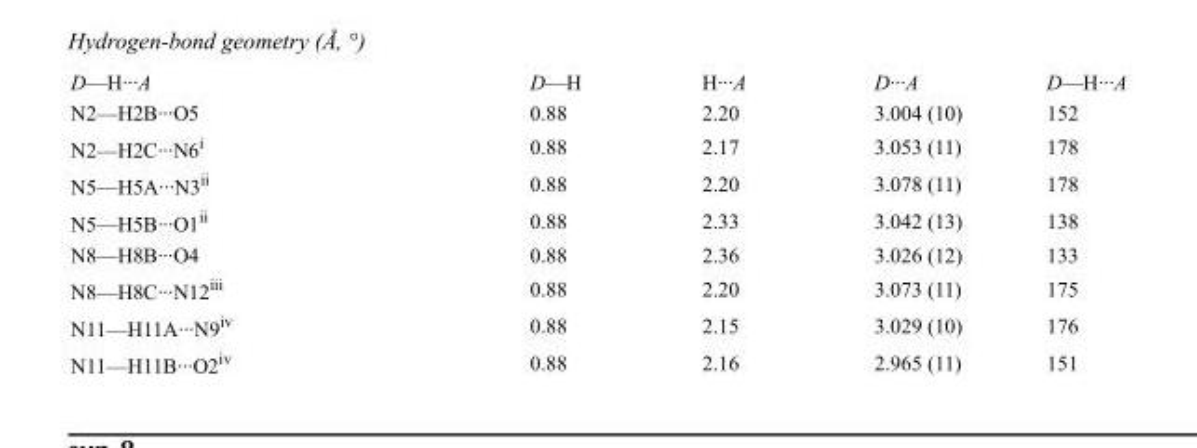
<table><tbody><tr><td>D—H···A</td><td>D—H</td><td>H···A</td><td>D···A</td><td>D—H···A</td></tr><tr><td>N2—H2B···O5</td><td>0.88</td><td>2.20</td><td>3.004 (10)</td><td>152</td></tr><tr><td>N2—H2C···N6<sup>i</sup></td><td>0.88</td><td>2.17</td><td>3.053 (11)</td><td>178</td></tr><tr><td>N5—H5A···N3<sup>ii</sup></td><td>0.88</td><td>2.20</td><td>3.078 (11)</td><td>178</td></tr><tr><td>N5—H5B···O1<sup>ii</sup></td><td>0.88</td><td>2.33</td><td>3.042 (13)</td><td>138</td></tr><tr><td>N8—H8B···O4</td><td>0.88</td><td>2.36</td><td>3.026 (12)</td><td>133</td></tr><tr><td>N8—H8C···N12<sup>iii</sup></td><td>0.88</td><td>2.20</td><td>3.073 (11)</td><td>175</td></tr><tr><td>N11—H11A···N9<sup>iv</sup></td><td>0.88</td><td>2.15</td><td>3.029 (10)</td><td>176</td></tr><tr><td>N11—H11B···O2<sup>iv</sup></td><td>0.88</td><td>2.16</td><td>2.965 (11)</td><td>151</td></tr></tbody></table>